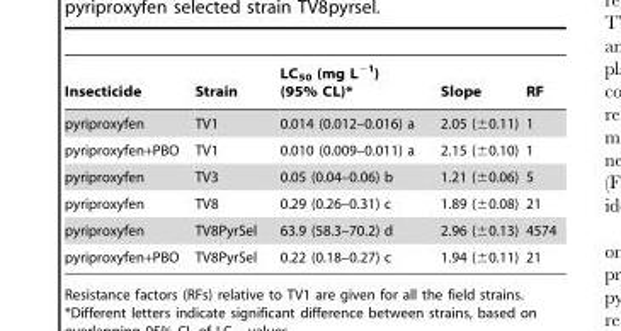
<table><thead><tr><td>Insecticide</td><td>Strain</td><td>LC<sub>50</sub> (mg L<sup>−1</sup>) (95% CL)*</td><td>Slope</td><td>RF</td></tr></thead><tbody><tr><td>pyriproxyfen</td><td>TV1</td><td>0.014 (0.012–0.016) a</td><td>2.05 (±0.11)</td><td>1</td></tr><tr><td>pyriproxyfen+PBO</td><td>TV1</td><td>0.010 (0.009–0.011) a</td><td>2.15 (±0.10)</td><td>1</td></tr><tr><td>pyriproxyfen</td><td>TV3</td><td>0.05 (0.04–0.06) b</td><td>1.21 (±0.06)</td><td>5</td></tr><tr><td>pyriproxyfen</td><td>TV8</td><td>0.29 (0.26–0.31) c</td><td>1.89 (±0.08)</td><td>21</td></tr><tr><td>pyriproxyfen</td><td>TV8PyrSel</td><td>63.9 (58.3–70.2) d</td><td>2.96 (±0.13)</td><td>4574</td></tr><tr><td>pyriproxyfen+PBO</td><td>TV8PyrSel</td><td>0.22 (0.18–0.27) c</td><td>1.94 (±0.11)</td><td>21</td></tr></tbody></table>